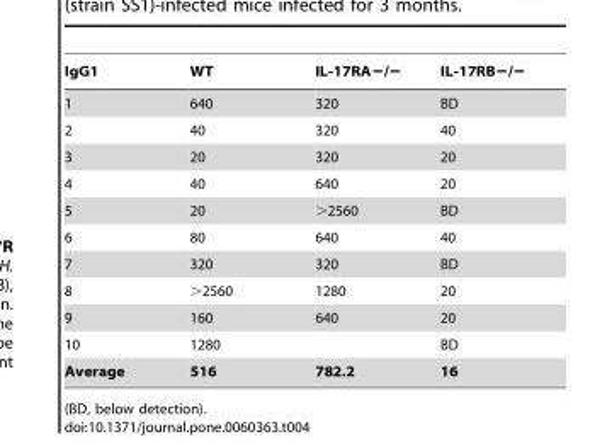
<table><thead><tr><td>IgG1</td><td>WT</td><td>IL-17RA−/−</td><td>IL-17RB−/−</td></tr></thead><tbody><tr><td>1</td><td>640</td><td>320</td><td>BD</td></tr><tr><td>2</td><td>40</td><td>320</td><td>40</td></tr><tr><td>3</td><td>20</td><td>320</td><td>20</td></tr><tr><td>4</td><td>40</td><td>640</td><td>20</td></tr><tr><td>5</td><td>20</td><td>&gt;2560</td><td>BD</td></tr><tr><td>6</td><td>80</td><td>640</td><td>40</td></tr><tr><td>7</td><td>320</td><td>320</td><td>BD</td></tr><tr><td>8</td><td>&gt;2560</td><td>1280</td><td>20</td></tr><tr><td>9</td><td>160</td><td>640</td><td>20</td></tr><tr><td>10</td><td>1280</td><td></td><td>BD</td></tr><tr><td>Average</td><td>516</td><td>782.2</td><td>16</td></tr></tbody></table>